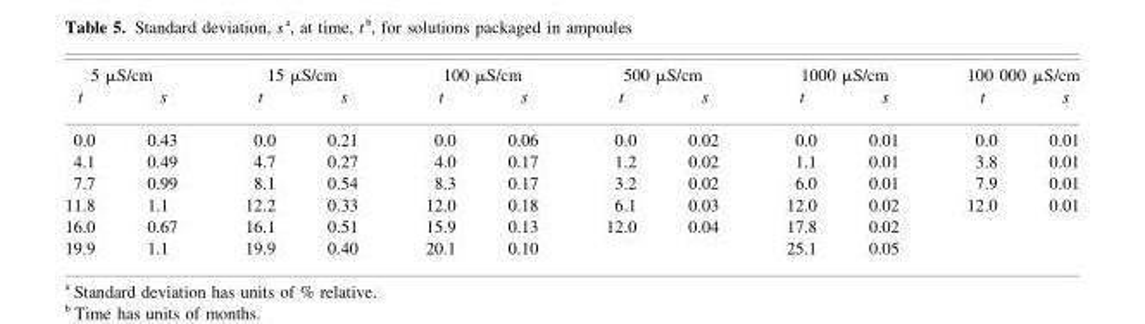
<table><thead><tr><td colspan="2">5 μS/cm</td><td colspan="2">15 μS/cm</td><td colspan="2">100 μS/cm</td><td colspan="2">500 μS/cm</td><td colspan="2">1000 μS/cm</td><td colspan="2">100 000 μS/cm</td></tr><tr><td>t</td><td>s</td><td>t</td><td>s</td><td>t</td><td>s</td><td>t</td><td>s</td><td>t</td><td>s</td><td>t</td><td>s</td></tr></thead><tbody><tr><td>0.0</td><td>0.43</td><td>0.0</td><td>0.21</td><td>0.0</td><td>0.06</td><td>0.0</td><td>0.02</td><td>0.0</td><td>0.01</td><td>0.0</td><td>0.01</td></tr><tr><td>4.1</td><td>0.49</td><td>4.7</td><td>0.27</td><td>4.0</td><td>0.17</td><td>1.2</td><td>0.02</td><td>1.1</td><td>0.01</td><td>3.8</td><td>0.01</td></tr><tr><td>7.7</td><td>0.99</td><td>8.1</td><td>0.54</td><td>8.3</td><td>0.17</td><td>3.2</td><td>0.02</td><td>6.0</td><td>0.01</td><td>7.9</td><td>0.01</td></tr><tr><td>11.8</td><td>1.1</td><td>12.2</td><td>0.33</td><td>12.0</td><td>0.18</td><td>6.1</td><td>0.03</td><td>12.0</td><td>0.02</td><td>12.0</td><td>0.01</td></tr><tr><td>16.0</td><td>0.67</td><td>16.1</td><td>0.51</td><td>15.9</td><td>0.13</td><td>12.0</td><td>0.04</td><td>17.8</td><td>0.02</td><td></td><td></td></tr><tr><td>19.9</td><td>1.1</td><td>19.9</td><td>0.40</td><td>20.1</td><td>0.10</td><td></td><td></td><td>25.1</td><td>0.05</td><td></td><td></td></tr></tbody></table>